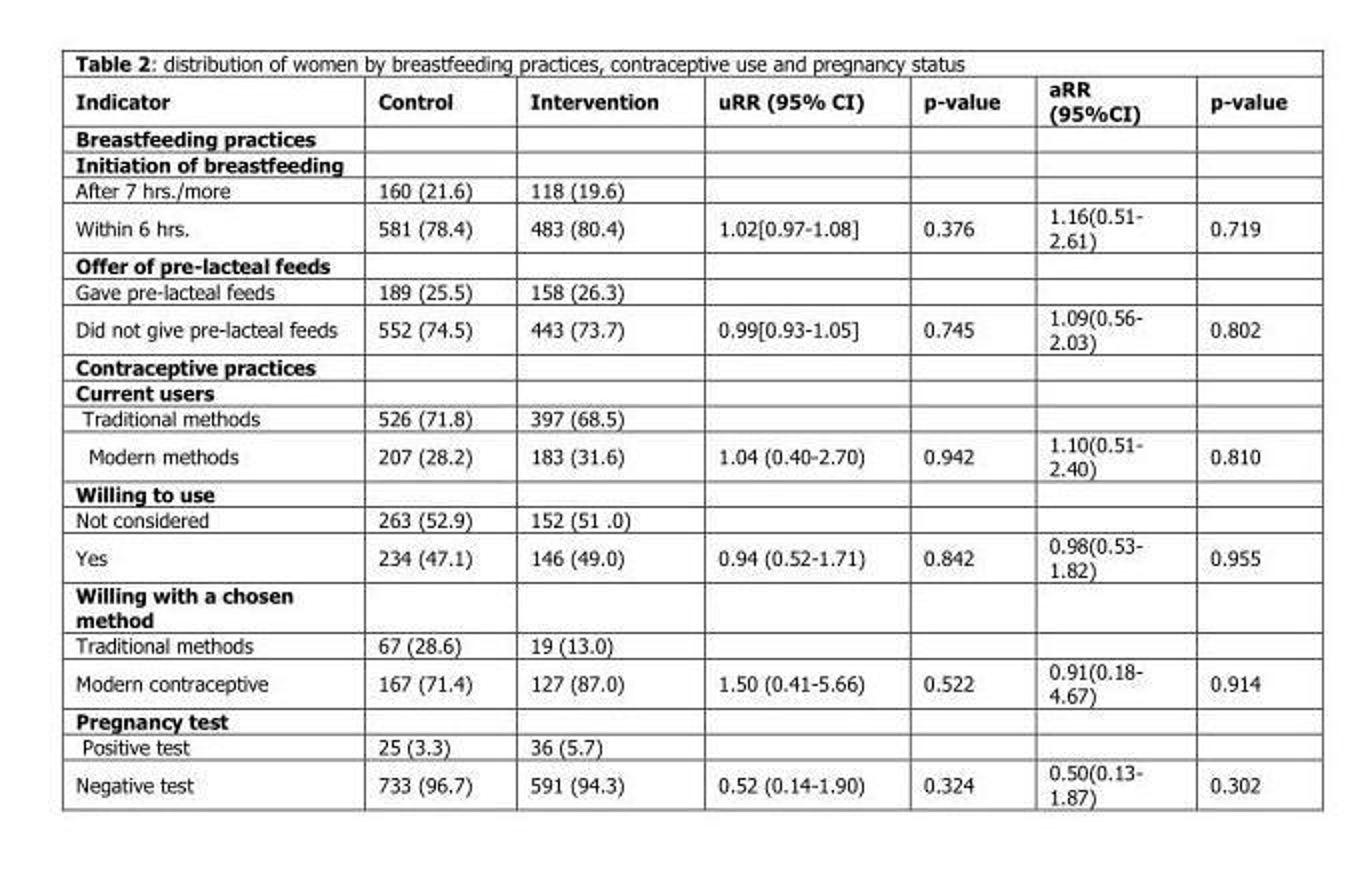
<table><thead><tr><td>Indicator</td><td>Control</td><td>Intervention</td><td>uRR (95% CI)</td><td>p-value</td><td>aRR (95%CI)</td><td>p-value</td></tr></thead><tbody><tr><td colspan="7">Breastfeeding practices</td></tr><tr><td colspan="7">Initiation of breastfeeding</td></tr><tr><td>After 7 hrs./more</td><td>160 (21.6)</td><td>118 (19.6)</td><td></td><td></td><td></td><td></td></tr><tr><td>Within 6 hrs.</td><td>581 (78.4)</td><td>483 (80.4)</td><td>1.02[0.97-1.08]</td><td>0.376</td><td>1.16(0.51- 2.61)</td><td>0.719</td></tr><tr><td colspan="7">Offer of pre-lacteal feeds</td></tr><tr><td>Gave pre-lacteal feeds</td><td>189 (25.5)</td><td>158 (26.3)</td><td></td><td></td><td></td><td></td></tr><tr><td>Did not give pre-lacteal feeds</td><td>552 (74.5)</td><td>443 (73.7)</td><td>0.99[0.93-1.05]</td><td>0.745</td><td>1.09(0.56- 2.03)</td><td>0.802</td></tr><tr><td colspan="7">Contraceptive practices</td></tr><tr><td colspan="7">Current users</td></tr><tr><td>Traditional methods</td><td>526 (71.8)</td><td>397 (68.5)</td><td></td><td></td><td></td><td></td></tr><tr><td>Modern methods</td><td>207 (28.2)</td><td>183 (31.6)</td><td>1.04 (0.40-2.70)</td><td>0.942</td><td>1.10(0.51- 2.40)</td><td>0.810</td></tr><tr><td colspan="7">Willing to use</td></tr><tr><td>Not considered</td><td>263 (52.9)</td><td>152 (51 .0)</td><td></td><td></td><td></td><td></td></tr><tr><td>Yes</td><td>234 (47.1)</td><td>146 (49.0)</td><td>0.94 (0.52-1.71)</td><td>0.842</td><td>0.98(0.53- 1.82)</td><td>0.955</td></tr><tr><td colspan="7">Willing with a chosen method</td></tr><tr><td>Traditional methods</td><td>67 (28.6)</td><td>19 (13.0)</td><td></td><td></td><td></td><td></td></tr><tr><td>Modern contraceptive</td><td>167 (71.4)</td><td>127 (87.0)</td><td>1.50 (0.41-5.66)</td><td>0.522</td><td>0.91(0.18- 4.67)</td><td>0.914</td></tr><tr><td colspan="7">Pregnancy test</td></tr><tr><td>Positive test</td><td>25 (3.3)</td><td>36 (5.7)</td><td></td><td></td><td></td><td></td></tr><tr><td>Negative test</td><td>733 (96.7)</td><td>591 (94.3)</td><td>0.52 (0.14-1.90)</td><td>0.324</td><td>0.50(0.13- 1.87)</td><td>0.302</td></tr></tbody></table>